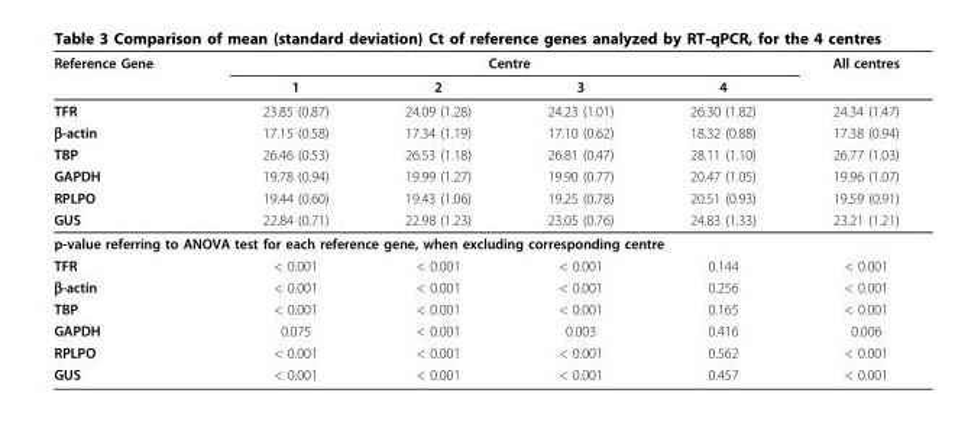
<table><thead><tr><td rowspan="2">Reference Gene</td><td colspan="4">Centre</td><td rowspan="2">All centres</td></tr><tr><td>1</td><td>2</td><td>3</td><td>4</td></tr></thead><tbody><tr><td>TFR</td><td>23.85 (0.87)</td><td>24.09 (1.28)</td><td>24.23 (1.01)</td><td>26.30 (1.82)</td><td>24.34 (1.47)</td></tr><tr><td>β-actin</td><td>17.15 (0.58)</td><td>17.34 (1.19)</td><td>17.10 (0.62)</td><td>18.32 (0.88)</td><td>17.38 (0.94)</td></tr><tr><td>TBP</td><td>26.46 (0.53)</td><td>26.53 (1.18)</td><td>26.81 (0.47)</td><td>28.11 (1.10)</td><td>26.77 (1.03)</td></tr><tr><td>GAPDH</td><td>19.78 (0.94)</td><td>19.99 (1.27)</td><td>19.90 (0.77)</td><td>20.47 (1.05)</td><td>19.96 (1.07)</td></tr><tr><td>RPLPO</td><td>19.44 (0.60)</td><td>19.43 (1.06)</td><td>19.25 (0.78)</td><td>20.51 (0.93)</td><td>19.59 (0.91)</td></tr><tr><td>GUS</td><td>22.84 (0.71)</td><td>22.98 (1.23)</td><td>23.05 (0.76)</td><td>24.83 (1.33)</td><td>23.21 (1.21)</td></tr><tr><td colspan="6">p-value referring to ANOVA test for each reference gene, when excluding corresponding centre</td></tr><tr><td>TFR</td><td>&lt; 0.001</td><td>&lt; 0.001</td><td>&lt; 0.001</td><td>0.144</td><td>&lt; 0.001</td></tr><tr><td>β-actin</td><td>&lt; 0.001</td><td>&lt; 0.001</td><td>&lt; 0.001</td><td>0.256</td><td>&lt; 0.001</td></tr><tr><td>TBP</td><td>&lt; 0.001</td><td>&lt; 0.001</td><td>&lt; 0.001</td><td>0.165</td><td>&lt; 0.001</td></tr><tr><td>GAPDH</td><td>0.075</td><td>&lt; 0.001</td><td>0.003</td><td>0.416</td><td>0.006</td></tr><tr><td>RPLPO</td><td>&lt; 0.001</td><td>&lt; 0.001</td><td>&lt; 0.001</td><td>0.562</td><td>&lt; 0.001</td></tr><tr><td>GUS</td><td>&lt; 0.001</td><td>&lt; 0.001</td><td>&lt; 0.001</td><td>0.457</td><td>&lt; 0.001</td></tr></tbody></table>